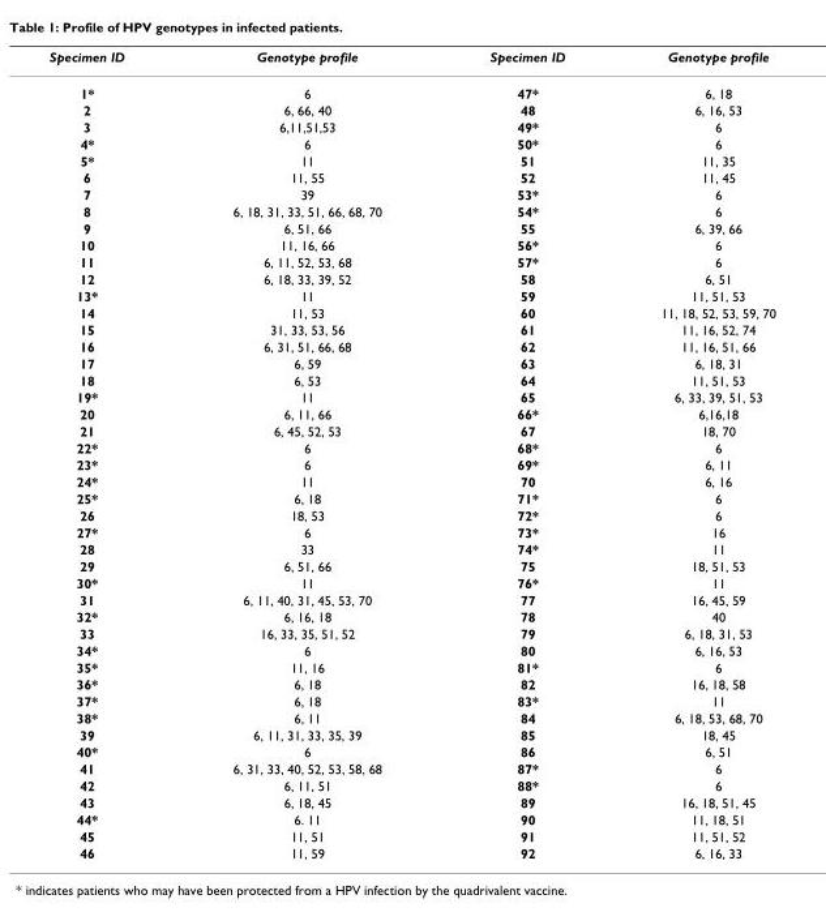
<table><thead><tr><td>Specimen ID</td><td>Genotype profile</td><td>Specimen ID</td><td>Genotype profile</td></tr></thead><tbody><tr><td>1*</td><td>6</td><td>47*</td><td>6, 18</td></tr><tr><td>2</td><td>6, 66, 40</td><td>48</td><td>6, 16, 53</td></tr><tr><td>3</td><td>6,11,51,53</td><td>49*</td><td>6</td></tr><tr><td>4*</td><td>6</td><td>50*</td><td>6</td></tr><tr><td>5*</td><td>11</td><td>51</td><td>11, 35</td></tr><tr><td>6</td><td>11, 55</td><td>52</td><td>11, 45</td></tr><tr><td>7</td><td>39</td><td>53*</td><td>6</td></tr><tr><td>8</td><td>6, 18, 31, 33, 51, 66, 68, 70</td><td>54*</td><td>6</td></tr><tr><td>9</td><td>6, 51, 66</td><td>55</td><td>6, 39, 66</td></tr><tr><td>10</td><td>11, 16, 66</td><td>56*</td><td>6</td></tr><tr><td>11</td><td>6, 11, 52, 53, 68</td><td>57*</td><td>6</td></tr><tr><td>12</td><td>6, 18, 33, 39, 52</td><td>58</td><td>6, 51</td></tr><tr><td>13*</td><td>11</td><td>59</td><td>11, 51, 53</td></tr><tr><td>14</td><td>11, 53</td><td>60</td><td>11, 18, 52, 53, 59, 70</td></tr><tr><td>15</td><td>31, 33, 53, 56</td><td>61</td><td>11, 16, 52, 74</td></tr><tr><td>16</td><td>6, 31, 51, 66, 68</td><td>62</td><td>11, 16, 51, 66</td></tr><tr><td>17</td><td>6, 59</td><td>63</td><td>6, 18, 31</td></tr><tr><td>18</td><td>6, 53</td><td>64</td><td>11, 51, 53</td></tr><tr><td>19*</td><td>11</td><td>65</td><td>6, 33, 39, 51, 53</td></tr><tr><td>20</td><td>6, 11, 66</td><td>66*</td><td>6,16,18</td></tr><tr><td>21</td><td>6, 45, 52, 53</td><td>67</td><td>18, 70</td></tr><tr><td>22*</td><td>6</td><td>68*</td><td>6</td></tr><tr><td>23*</td><td>6</td><td>69*</td><td>6, 11</td></tr><tr><td>24*</td><td>11</td><td>70</td><td>6, 16</td></tr><tr><td>25*</td><td>6, 18</td><td>71*</td><td>6</td></tr><tr><td>26</td><td>18, 53</td><td>72*</td><td>6</td></tr><tr><td>27*</td><td>6</td><td>73*</td><td>16</td></tr><tr><td>28</td><td>33</td><td>74*</td><td>11</td></tr><tr><td>29</td><td>6, 51, 66</td><td>75</td><td>18, 51, 53</td></tr><tr><td>30*</td><td>11</td><td>76*</td><td>11</td></tr><tr><td>31</td><td>6, 11, 40, 31, 45, 53, 70</td><td>77</td><td>16, 45, 59</td></tr><tr><td>32*</td><td>6, 16, 18</td><td>78</td><td>40</td></tr><tr><td>33</td><td>16, 33, 35, 51, 52</td><td>79</td><td>6, 18, 31, 53</td></tr><tr><td>34*</td><td>6</td><td>80</td><td>6, 16, 53</td></tr><tr><td>35*</td><td>11, 16</td><td>81*</td><td>6</td></tr><tr><td>36*</td><td>6, 18</td><td>82</td><td>16, 18, 58</td></tr><tr><td>37*</td><td>6, 18</td><td>83*</td><td>11</td></tr><tr><td>38*</td><td>6, 11</td><td>84</td><td>6, 18, 53, 68, 70</td></tr><tr><td>39</td><td>6, 11, 31, 33, 35, 39</td><td>85</td><td>18, 45</td></tr><tr><td>40*</td><td>6</td><td>86</td><td>6, 51</td></tr><tr><td>41</td><td>6, 31, 33, 40, 52, 53, 58, 68</td><td>87*</td><td>6</td></tr><tr><td>42</td><td>6, 11, 51</td><td>88*</td><td>6</td></tr><tr><td>43</td><td>6, 18, 45</td><td>89</td><td>16, 18, 51, 45</td></tr><tr><td>44*</td><td>6. 11</td><td>90</td><td>11, 18, 51</td></tr><tr><td>45</td><td>11, 51</td><td>91</td><td>11, 51, 52</td></tr><tr><td>46</td><td>11, 59</td><td>92</td><td>6, 16, 33</td></tr></tbody></table>